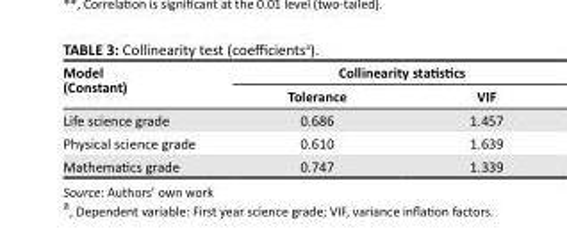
<table><thead><tr><td rowspan="2">Model (Constant)</td><td colspan="2">Collinearity statistics</td></tr><tr><td>Tolerance</td><td>VIF</td></tr></thead><tbody><tr><td>Life science grade</td><td>0.686</td><td>1.457</td></tr><tr><td>Physical science grade</td><td>0.610</td><td>1.639</td></tr><tr><td>Mathematics grade</td><td>0.747</td><td>1.339</td></tr></tbody></table>